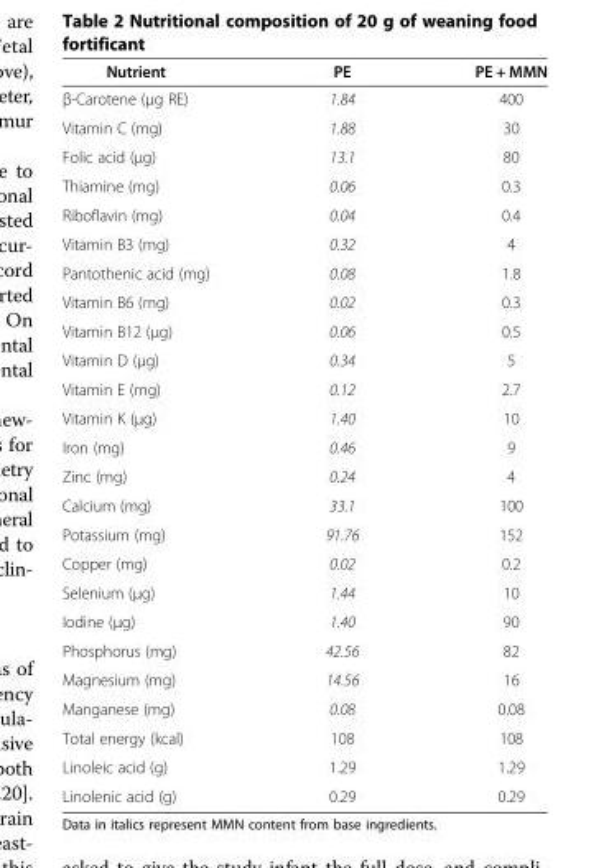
<table><thead><tr><td>Nutrient</td><td>PE</td><td>PE + MMN</td></tr></thead><tbody><tr><td>β-Carotene (μg RE)</td><td>1.84</td><td>400</td></tr><tr><td>Vitamin C (mg)</td><td>1.88</td><td>30</td></tr><tr><td>Folic acid (μg)</td><td>13.1</td><td>80</td></tr><tr><td>Thiamine (mg)</td><td>0.06</td><td>0.3</td></tr><tr><td>Riboflavin (mg)</td><td>0.04</td><td>0.4</td></tr><tr><td>Vitamin B3 (mg)</td><td>0.32</td><td>4</td></tr><tr><td>Pantothenic acid (mg)</td><td>0.08</td><td>1.8</td></tr><tr><td>Vitamin B6 (mg)</td><td>0.02</td><td>0.3</td></tr><tr><td>Vitamin B12 (μg)</td><td>0.06</td><td>0.5</td></tr><tr><td>Vitamin D (μg)</td><td>0.34</td><td>5</td></tr><tr><td>Vitamin E (mg)</td><td>0.12</td><td>2.7</td></tr><tr><td>Vitamin K (μg)</td><td>1.40</td><td>10</td></tr><tr><td>Iron (mg)</td><td>0.46</td><td>9</td></tr><tr><td>Zinc (mg)</td><td>0.24</td><td>4</td></tr><tr><td>Calcium (mg)</td><td>33.1</td><td>100</td></tr><tr><td>Potassium (mg)</td><td>91.76</td><td>152</td></tr><tr><td>Copper (mg)</td><td>0.02</td><td>0.2</td></tr><tr><td>Selenium (μg)</td><td>1.44</td><td>10</td></tr><tr><td>Iodine (μg)</td><td>1.40</td><td>90</td></tr><tr><td>Phosphorus (mg)</td><td>42.56</td><td>82</td></tr><tr><td>Magnesium (mg)</td><td>14.56</td><td>16</td></tr><tr><td>Manganese (mg)</td><td>0.08</td><td>0.08</td></tr><tr><td>Total energy (kcal)</td><td>108</td><td>108</td></tr><tr><td>Linoleic acid (g)</td><td>1.29</td><td>1.29</td></tr><tr><td>Linolenic acid (g)</td><td>0.29</td><td>0.29</td></tr></tbody></table>